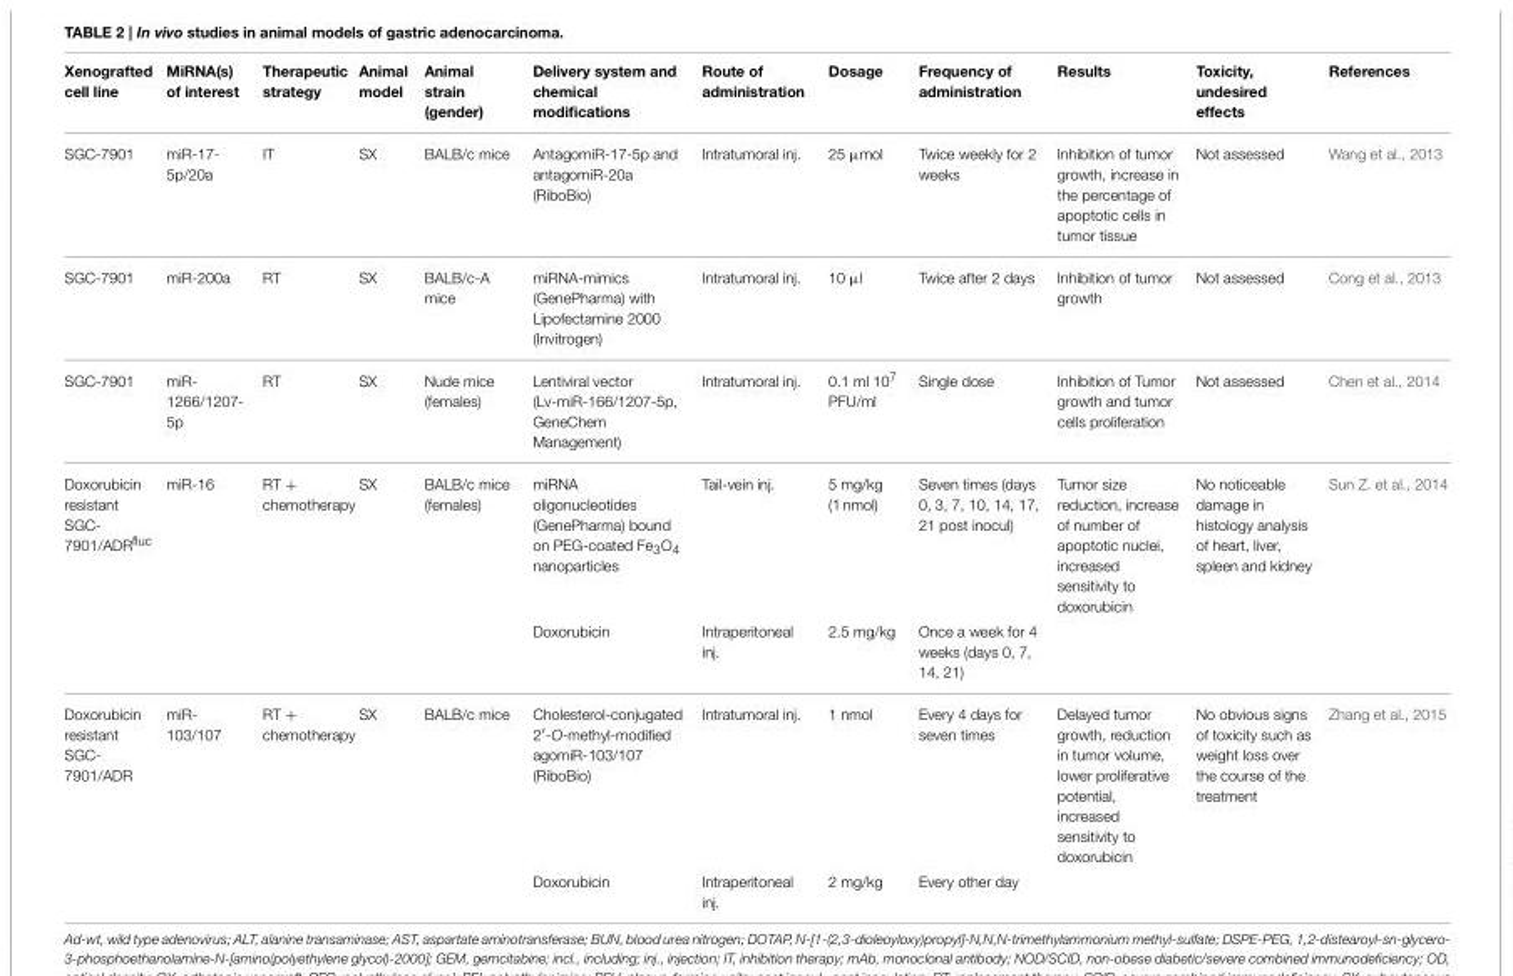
<table><thead><tr><td>Xenografted cell line</td><td>MiRNA(s) of interest</td><td>Therapeutic strategy</td><td>Animal model</td><td>Animal strain (gender)</td><td>Delivery system and chemical modifications</td><td>Route of administration</td><td>Dosage</td><td>Frequency of administration</td><td>Results</td><td>Toxicity, undesired effects</td><td>References</td></tr></thead><tbody><tr><td>SGC-7901</td><td>miR-17- 5p/20a</td><td>IT</td><td>SX</td><td>BALB/c mice</td><td>AntagomiR-17-5p and antagomiR-20a (RiboBio)</td><td>Intratumoral inj.</td><td>25 µmol</td><td>Twice weekly for 2 weeks</td><td>Inhibition of tumor growth, increase in the percentage of apoptotic cells in tumor tissue</td><td>Not assessed</td><td>Wang et al., 2013</td></tr><tr><td>SGC-7901</td><td>miR-200a</td><td>RT</td><td>SX</td><td>BALB/c-A mice</td><td>miRNA-mimics (GenePharma) with Lipofectamine 2000 (Invitrogen)</td><td>Intratumoral inj.</td><td>10 µl</td><td>Twice after 2 days</td><td>Inhibition of tumor growth</td><td>Not assessed</td><td>Cong et al., 2013</td></tr><tr><td>SGC-7901</td><td>miR- 1266/1207- 5p</td><td>RT</td><td>SX</td><td>Nude mice (females)</td><td>Lentiviral vector (Lv-miR-166/1207-5p, GeneChem Management)</td><td>Intratumoral inj.</td><td>0.1 ml 10<sup>7</sup> PFU/ml</td><td>Single dose</td><td>Inhibition of Tumor growth and tumor cells proliferation</td><td>Not assessed</td><td>Chen et al., 2014</td></tr><tr><td rowspan="2">Doxorubicin resistant SGC- 7901/ADR<sup>fluc</sup></td><td>miR-16</td><td>RT + chemotherapy</td><td>SX</td><td>BALB/c mice (females)</td><td>miRNA oligonucleotides (GenePharma) bound on PEG-coated Fe<sub>3</sub>O<sub>4</sub> nanoparticles</td><td>Tail-vein inj.</td><td>5 mg/kg (1 nmol)</td><td>Seven times (days 0, 3, 7, 10, 14, 17, 21 post inocul)</td><td>Tumor size reduction, increase of number of apoptotic nuclei, increased sensitivity to doxorubicin</td><td>No noticeable damage in histology analysis of heart, liver, spleen and kidney</td><td>Sun Z. et al., 2014</td></tr><tr><td></td><td></td><td></td><td></td><td>Doxorubicin</td><td>Intraperitoneal inj.</td><td>2.5 mg/kg</td><td>Once a week for 4 weeks (days 0, 7, 14, 21)</td><td></td><td></td><td></td></tr><tr><td rowspan="2">Doxorubicin resistant SGC- 7901/ADR</td><td>miR- 103/107</td><td>RT + chemotherapy</td><td>SX</td><td>BALB/c mice</td><td>Cholesterol-conjugated 2′-O-methyl-modified agomiR-103/107 (RiboBio)</td><td>Intratumoral inj.</td><td>1 nmol</td><td>Every 4 days for seven times</td><td>Delayed tumor growth, reduction in tumor volume, lower proliferative potential, increased sensitivity to doxorubicin</td><td>No obvious signs of toxicity such as weight loss over the course of the treatment</td><td>Zhang et al., 2015</td></tr><tr><td></td><td></td><td></td><td></td><td>Doxorubicin</td><td>Intraperitoneal inj.</td><td>2 mg/kg</td><td>Every other day</td><td></td><td></td><td></td></tr></tbody></table>